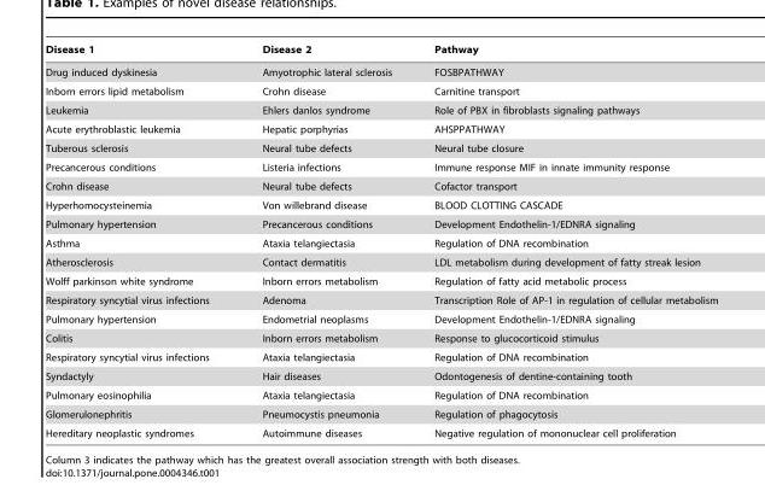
<table><thead><tr><td>Disease 1</td><td>Disease 2</td><td>Pathway</td></tr></thead><tbody><tr><td>Drug induced dyskinesia</td><td>Amyotrophic lateral sclerosis</td><td>FOSBPATHWAY</td></tr><tr><td>Inborn errors lipid metabolism</td><td>Crohn disease</td><td>Carnitine transport</td></tr><tr><td>Leukemia</td><td>Ehlers danlos syndrome</td><td>Role of PBX in fibroblasts signaling pathways</td></tr><tr><td>Acute erythroblastic leukemia</td><td>Hepatic porphyrias</td><td>AHSPPATHWAY</td></tr><tr><td>Tuberous sclerosis</td><td>Neural tube defects</td><td>Neural tube closure</td></tr><tr><td>Precancerous conditions</td><td>Listeria infections</td><td>Immune response MIF in innate immunity response</td></tr><tr><td>Crohn disease</td><td>Neural tube defects</td><td>Cofactor transport</td></tr><tr><td>Hyperhomocysteinemia</td><td>Von willebrand disease</td><td>BLOOD CLOTTING CASCADE</td></tr><tr><td>Pulmonary hypertension</td><td>Precancerous conditions</td><td>Development Endothelin-1/EDNRA signaling</td></tr><tr><td>Asthma</td><td>Ataxia telangiectasia</td><td>Regulation of DNA recombination</td></tr><tr><td>Atherosclerosis</td><td>Contact dermatitis</td><td>LDL metabolism during development of fatty streak lesion</td></tr><tr><td>Wolff parkinson white syndrome</td><td>Inborn errors metabolism</td><td>Regulation of fatty acid metabolic process</td></tr><tr><td>Respiratory syncytial virus infections</td><td>Adenoma</td><td>Transcription Role of AP-1 in regulation of cellular metabolism</td></tr><tr><td>Pulmonary hypertension</td><td>Endometrial neoplasms</td><td>Development Endothelin-1/EDNRA signaling</td></tr><tr><td>Colitis</td><td>Inborn errors metabolism</td><td>Response to glucocorticoid stimulus</td></tr><tr><td>Respiratory syncytial virus infections</td><td>Ataxia telangiectasia</td><td>Regulation of DNA recombination</td></tr><tr><td>Syndactyly</td><td>Hair diseases</td><td>Odontogenesis of dentine-containing tooth</td></tr><tr><td>Pulmonary eosinophilia</td><td>Ataxia telangiectasia</td><td>Regulation of DNA recombination</td></tr><tr><td>Glomerulonephritis</td><td>Pneumocystis pneumonia</td><td>Regulation of phagocytosis</td></tr><tr><td>Hereditary neoplastic syndromes</td><td>Autoimmune diseases</td><td>Negative regulation of mononuclear cell proliferation</td></tr></tbody></table>